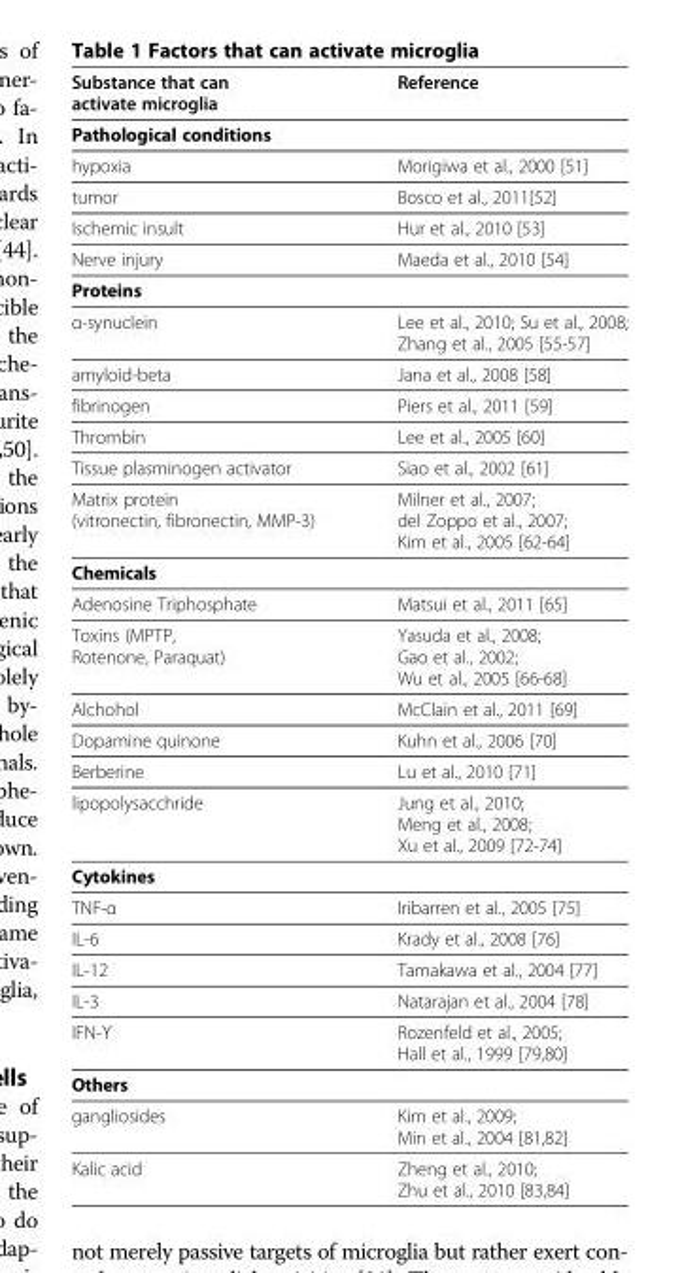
<table><thead><tr><td>Substance that can activate microglia</td><td>Reference</td></tr></thead><tbody><tr><td colspan="2">Pathological conditions</td></tr><tr><td>hypoxia</td><td>Morigiwa et al., 2000 [51]</td></tr><tr><td>tumor</td><td>Bosco et al., 2011[52]</td></tr><tr><td>Ischemic insult</td><td>Hur et al., 2010 [53]</td></tr><tr><td>Nerve injury</td><td>Maeda et al., 2010 [54]</td></tr><tr><td colspan="2">Proteins</td></tr><tr><td>α-synuclein</td><td>Lee et al., 2010; Su et al., 2008; Zhang et al., 2005 [55-57]</td></tr><tr><td>amyloid-beta</td><td>Jana et al., 2008 [58]</td></tr><tr><td>fibrinogen</td><td>Piers et al., 2011 [59]</td></tr><tr><td>Thrombin</td><td>Lee et al., 2005 [60]</td></tr><tr><td>Tissue plasminogen activator</td><td>Siao et al., 2002 [61]</td></tr><tr><td>Matrix protein (vitronectin, fibronectin, MMP-3)</td><td>Milner et al., 2007; del Zoppo et al., 2007; Kim et al., 2005 [62-64]</td></tr><tr><td colspan="2">Chemicals</td></tr><tr><td>Adenosine Triphosphate</td><td>Matsui et al., 2011 [65]</td></tr><tr><td>Toxins (MPTP, Rotenone, Paraquat)</td><td>Yasuda et al., 2008; Gao et al., 2002; Wu et al., 2005 [66-68]</td></tr><tr><td>Alchohol</td><td>McClain et al., 2011 [69]</td></tr><tr><td>Dopamine quinone</td><td>Kuhn et al., 2006 [70]</td></tr><tr><td>Berberine</td><td>Lu et al., 2010 [71]</td></tr><tr><td>lipopolysacchride</td><td>Jung et al., 2010; Meng et al., 2008; Xu et al., 2009 [72-74]</td></tr><tr><td colspan="2">Cytokines</td></tr><tr><td>TNF-α</td><td>Iribarren et al., 2005 [75]</td></tr><tr><td>IL-6</td><td>Krady et al., 2008 [76]</td></tr><tr><td>IL-12</td><td>Tamakawa et al., 2004 [77]</td></tr><tr><td>IL-3</td><td>Natarajan et al., 2004 [78]</td></tr><tr><td>IFN-Υ</td><td>Rozenfeld et al., 2005; Hall et al., 1999 [79,80]</td></tr><tr><td colspan="2">Others</td></tr><tr><td>gangliosides</td><td>Kim et al., 2009; Min et al., 2004 [81,82]</td></tr><tr><td>Kalic acid</td><td>Zheng et al., 2010; Zhu et al., 2010 [83,84]</td></tr></tbody></table>